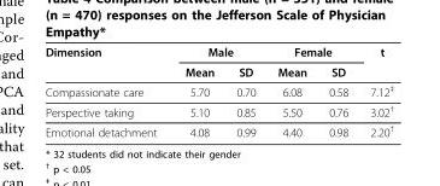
<table><thead><tr><td rowspan="2">Dimension</td><td colspan="2">Male</td><td colspan="2">Female</td><td rowspan="2">t</td></tr><tr><td>Mean</td><td>SD</td><td>Mean</td><td>SD</td></tr></thead><tbody><tr><td>Compassionate care</td><td>5.70</td><td>0.70</td><td>6.08</td><td>0.58</td><td>7.12<sup>‡</sup></td></tr><tr><td>Perspective taking</td><td>5.10</td><td>0.85</td><td>5.50</td><td>0.76</td><td>3.02<sup>†</sup></td></tr><tr><td>Emotional detachment</td><td>4.08</td><td>0.99</td><td>4.40</td><td>0.98</td><td>2.20<sup>†</sup></td></tr></tbody></table>